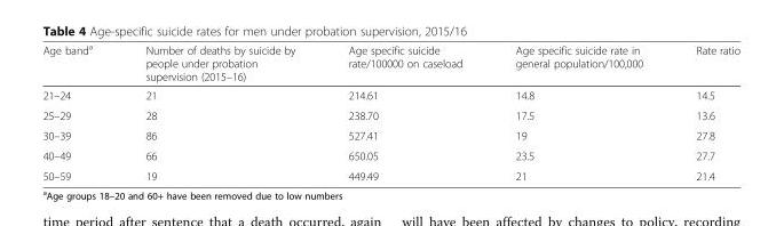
<table><thead><tr><td>Age band<sup>a</sup></td><td>Number of deaths by suicide by people under probation supervision (2015–16)</td><td>Age specific suicide rate/100000 on caseload</td><td>Age specific suicide rate in general population/100,000</td><td>Rate ratio</td></tr></thead><tbody><tr><td>21–24</td><td>21</td><td>214.61</td><td>14.8</td><td>14.5</td></tr><tr><td>25–29</td><td>28</td><td>238.70</td><td>17.5</td><td>13.6</td></tr><tr><td>30–39</td><td>86</td><td>527.41</td><td>19</td><td>27.8</td></tr><tr><td>40–49</td><td>66</td><td>650.05</td><td>23.5</td><td>27.7</td></tr><tr><td>50–59</td><td>19</td><td>449.49</td><td>21</td><td>21.4</td></tr></tbody></table>